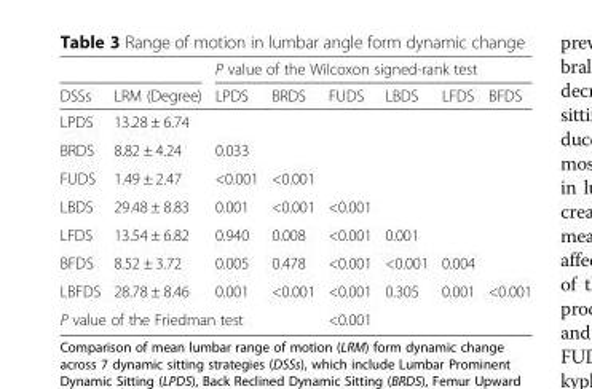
<table><thead><tr><td rowspan="2">DSSs</td><td rowspan="2">LRM (Degree)</td><td colspan="6">P value of the Wilcoxon signed-rank test</td></tr><tr><td>LPDS</td><td>BRDS</td><td>FUDS</td><td>LBDS</td><td>LFDS</td><td>BFDS</td></tr></thead><tbody><tr><td>LPDS</td><td colspan="7">13.28 ± 6.74</td></tr><tr><td>BRDS</td><td>8.82 ± 4.24</td><td colspan="6">0.033</td></tr><tr><td>FUDS</td><td>1.49 ± 2.47</td><td>&lt;0.001</td><td colspan="5">&lt;0.001</td></tr><tr><td>LBDS</td><td>29.48 ± 8.83</td><td>0.001</td><td>&lt;0.001</td><td colspan="4">&lt;0.001</td></tr><tr><td>LFDS</td><td>13.54 ± 6.82</td><td>0.940</td><td>0.008</td><td>&lt;0.001</td><td colspan="3">0.001</td></tr><tr><td>BFDS</td><td>8.52 ± 3.72</td><td>0.005</td><td>0.478</td><td>&lt;0.001</td><td>&lt;0.001</td><td colspan="2">0.004</td></tr><tr><td>LBFDS</td><td>28.78 ± 8.46</td><td>0.001</td><td>&lt;0.001</td><td>&lt;0.001</td><td>0.305</td><td>0.001</td><td>&lt;0.001</td></tr><tr><td colspan="4">P value of the Friedman test</td><td colspan="4">&lt;0.001</td></tr></tbody></table>